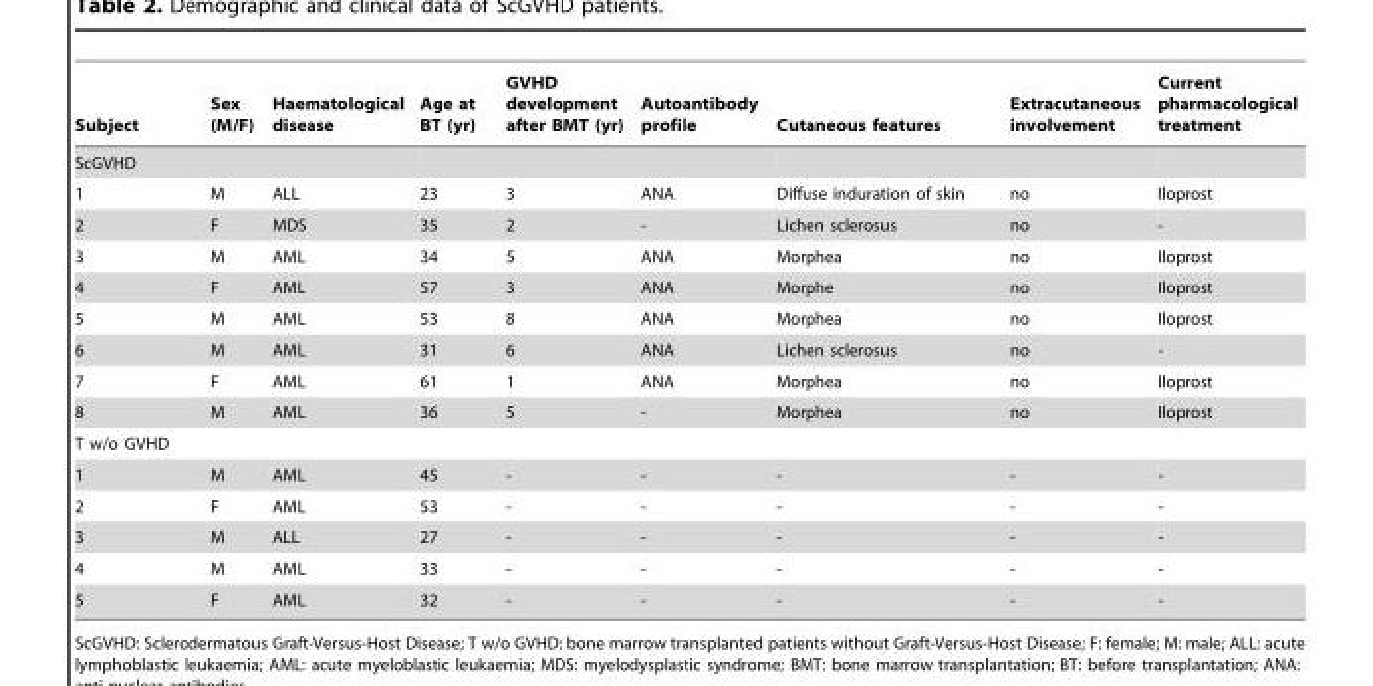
<table><thead><tr><td>Subject</td><td>Sex (M/F)</td><td>Haematological disease</td><td>Age at BT (yr)</td><td>GVHD development after BMT (yr)</td><td>Autoantibody profile</td><td>Cutaneous features</td><td>Extracutaneous involvement</td><td>Current pharmacological treatment</td></tr></thead><tbody><tr><td colspan="9">ScGVHD</td></tr><tr><td>1</td><td>M</td><td>ALL</td><td>23</td><td>3</td><td>ANA</td><td>Diffuse induration of skin</td><td>no</td><td>Iloprost</td></tr><tr><td>2</td><td>F</td><td>MDS</td><td>35</td><td>2</td><td>-</td><td>Lichen sclerosus</td><td>no</td><td>-</td></tr><tr><td>3</td><td>M</td><td>AML</td><td>34</td><td>5</td><td>ANA</td><td>Morphea</td><td>no</td><td>Iloprost</td></tr><tr><td>4</td><td>F</td><td>AML</td><td>57</td><td>3</td><td>ANA</td><td>Morphe</td><td>no</td><td>Iloprost</td></tr><tr><td>5</td><td>M</td><td>AML</td><td>53</td><td>8</td><td>ANA</td><td>Morphea</td><td>no</td><td>Iloprost</td></tr><tr><td>6</td><td>M</td><td>AML</td><td>31</td><td>6</td><td>ANA</td><td>Lichen sclerosus</td><td>no</td><td>-</td></tr><tr><td>7</td><td>F</td><td>AML</td><td>61</td><td>1</td><td>ANA</td><td>Morphea</td><td>no</td><td>Iloprost</td></tr><tr><td>8</td><td>M</td><td>AML</td><td>36</td><td>5</td><td>-</td><td>Morphea</td><td>no</td><td>Iloprost</td></tr><tr><td colspan="9">T w/o GVHD</td></tr><tr><td>1</td><td>M</td><td>AML</td><td>45</td><td>-</td><td>-</td><td>-</td><td>-</td><td>-</td></tr><tr><td>2</td><td>F</td><td>AML</td><td>53</td><td>-</td><td>-</td><td>-</td><td>-</td><td>-</td></tr><tr><td>3</td><td>M</td><td>ALL</td><td>27</td><td>-</td><td>-</td><td>-</td><td>-</td><td>-</td></tr><tr><td>4</td><td>M</td><td>AML</td><td>33</td><td>-</td><td>-</td><td>-</td><td>-</td><td>-</td></tr><tr><td>5</td><td>F</td><td>AML</td><td>32</td><td>-</td><td>-</td><td>-</td><td>-</td><td>-</td></tr></tbody></table>